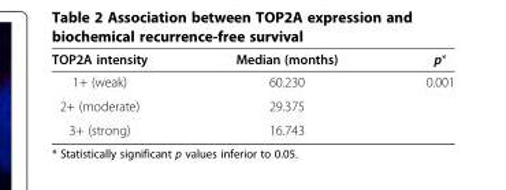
<table><thead><tr><td>TOP2A intensity</td><td>Median (months)</td><td>p*</td></tr></thead><tbody><tr><td>1+ (weak)</td><td>60.230</td><td rowspan="2">0.001</td></tr><tr><td>2+ (moderate)</td><td>29.375</td></tr><tr><td>3+ (strong)</td><td>16.743</td><td></td></tr></tbody></table>